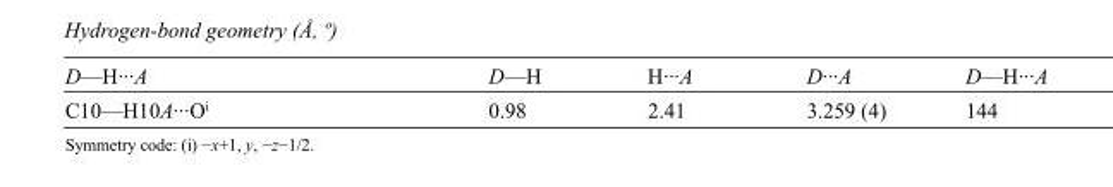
<table><tbody><tr><td>D—H···A</td><td>D—H</td><td>H···A</td><td>D···A</td><td>D—H···A</td></tr><tr><td>C10—H10A···O<sup>i</sup></td><td>0.98</td><td>2.41</td><td>3.259 (4)</td><td>144</td></tr></tbody></table>